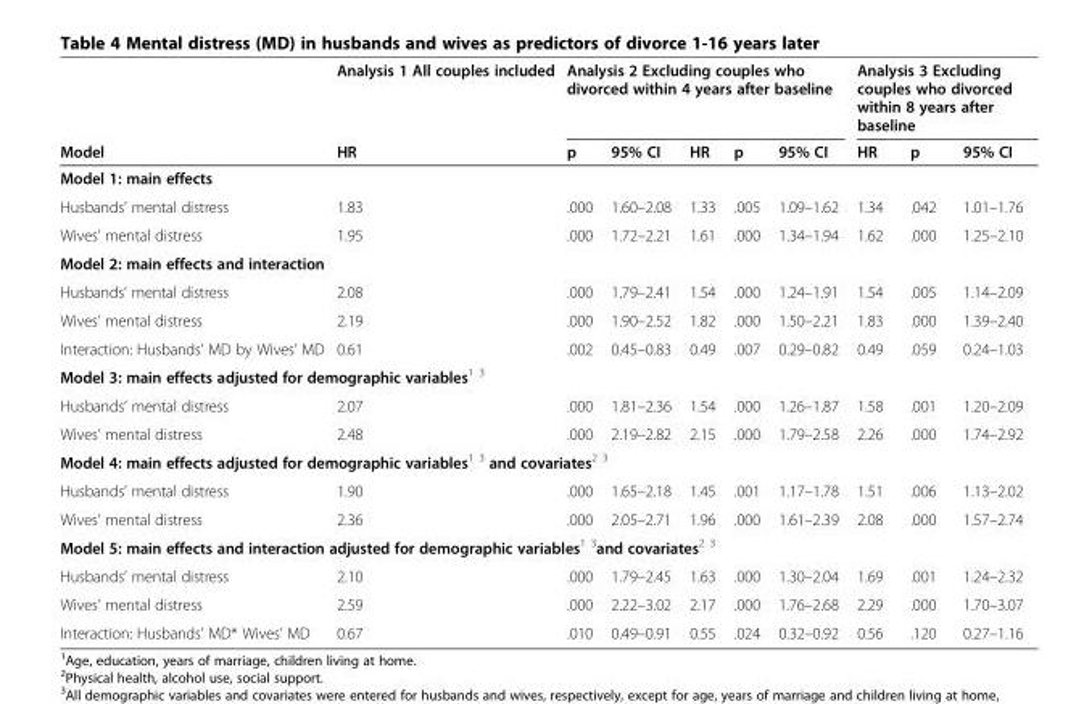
<table><thead><tr><td rowspan="2">Model</td><td rowspan="2">Analysis 1 All couples included HR</td><td colspan="5">Analysis 2 Excluding couples who divorced within 4 years after baseline</td><td colspan="3">Analysis 3 Excluding couples who divorced within 8 years after baseline</td></tr><tr><td>p</td><td>95% CI</td><td>HR</td><td>p</td><td>95% CI</td><td>HR</td><td>p</td><td>95% CI</td></tr></thead><tbody><tr><td colspan="10">Model 1: main effects</td></tr><tr><td>Husbands’ mental distress</td><td>1.83</td><td>.000</td><td>1.60–2.08</td><td>1.33</td><td>.005</td><td>1.09–1.62</td><td>1.34</td><td>.042</td><td>1.01–1.76</td></tr><tr><td>Wives’ mental distress</td><td>1.95</td><td>.000</td><td>1.72–2.21</td><td>1.61</td><td>.000</td><td>1.34–1.94</td><td>1.62</td><td>.000</td><td>1.25–2.10</td></tr><tr><td colspan="10">Model 2: main effects and interaction</td></tr><tr><td>Husbands’ mental distress</td><td>2.08</td><td>.000</td><td>1.79–2.41</td><td>1.54</td><td>.000</td><td>1.24–1.91</td><td>1.54</td><td>.005</td><td>1.14–2.09</td></tr><tr><td>Wives’ mental distress</td><td>2.19</td><td>.000</td><td>1.90–2.52</td><td>1.82</td><td>.000</td><td>1.50–2.21</td><td>1.83</td><td>.000</td><td>1.39–2.40</td></tr><tr><td>Interaction: Husbands’ MD by Wives’ MD</td><td>0.61</td><td>.002</td><td>0.45–0.83</td><td>0.49</td><td>.007</td><td>0.29–0.82</td><td>0.49</td><td>.059</td><td>0.24–1.03</td></tr><tr><td colspan="10">Model 3: main effects adjusted for demographic variables<sup>1 3</sup></td></tr><tr><td>Husbands’ mental distress</td><td>2.07</td><td>.000</td><td>1.81–2.36</td><td>1.54</td><td>.000</td><td>1.26–1.87</td><td>1.58</td><td>.001</td><td>1.20–2.09</td></tr><tr><td>Wives’ mental distress</td><td>2.48</td><td>.000</td><td>2.19–2.82</td><td>2.15</td><td>.000</td><td>1.79–2.58</td><td>2.26</td><td>.000</td><td>1.74–2.92</td></tr><tr><td colspan="10">Model 4: main effects adjusted for demographic variables<sup>1 3</sup> and covariates<sup>2 3</sup></td></tr><tr><td>Husbands’ mental distress</td><td>1.90</td><td>.000</td><td>1.65–2.18</td><td>1.45</td><td>.001</td><td>1.17–1.78</td><td>1.51</td><td>.006</td><td>1.13–2.02</td></tr><tr><td>Wives’ mental distress</td><td>2.36</td><td>.000</td><td>2.05–2.71</td><td>1.96</td><td>.000</td><td>1.61–2.39</td><td>2.08</td><td>.000</td><td>1.57–2.74</td></tr><tr><td colspan="10">Model 5: main effects and interaction adjusted for demographic variables<sup>1 3</sup>and covariates<sup>2 3</sup></td></tr><tr><td>Husbands’ mental distress</td><td>2.10</td><td>.000</td><td>1.79–2.45</td><td>1.63</td><td>.000</td><td>1.30–2.04</td><td>1.69</td><td>.001</td><td>1.24–2.32</td></tr><tr><td>Wives’ mental distress</td><td>2.59</td><td>.000</td><td>2.22–3.02</td><td>2.17</td><td>.000</td><td>1.76–2.68</td><td>2.29</td><td>.000</td><td>1.70–3.07</td></tr><tr><td>Interaction: Husbands’ MD* Wives’ MD</td><td>0.67</td><td>.010</td><td>0.49–0.91</td><td>0.55</td><td>.024</td><td>0.32–0.92</td><td>0.56</td><td>.120</td><td>0.27–1.16</td></tr></tbody></table>